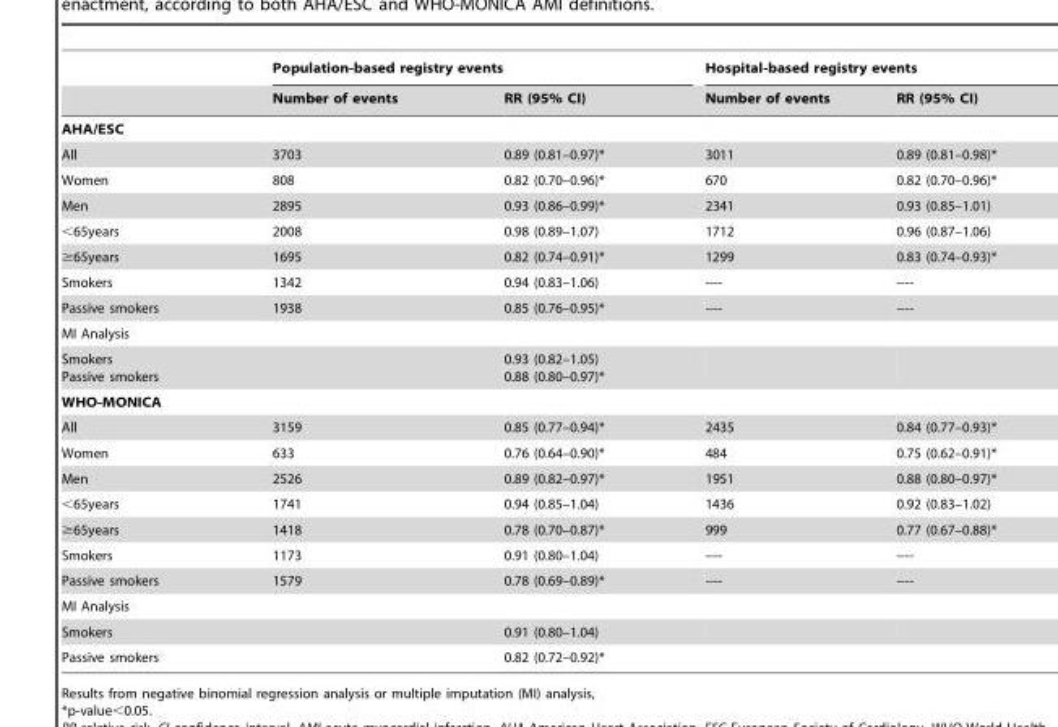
<table><thead><tr><td rowspan="2"></td><td colspan="2">Population-based registry events</td><td colspan="2">Hospital-based registry events</td></tr><tr><td>Number of events</td><td>RR (95% CI)</td><td>Number of events</td><td>RR (95% CI)</td></tr></thead><tbody><tr><td colspan="5">AHA/ESC</td></tr><tr><td>All</td><td>3703</td><td>0.89 (0.81–0.97)*</td><td>3011</td><td>0.89 (0.81–0.98)*</td></tr><tr><td>Women</td><td>808</td><td>0.82 (0.70–0.96)*</td><td>670</td><td>0.82 (0.70–0.96)*</td></tr><tr><td>Men</td><td>2895</td><td>0.93 (0.86–0.99)*</td><td>2341</td><td>0.93 (0.85–1.01)</td></tr><tr><td>&lt;65years</td><td>2008</td><td>0.98 (0.89–1.07)</td><td>1712</td><td>0.96 (0.87–1.06)</td></tr><tr><td>≥65years</td><td>1695</td><td>0.82 (0.74–0.91)*</td><td>1299</td><td>0.83 (0.74–0.93)*</td></tr><tr><td>Smokers</td><td>1342</td><td>0.94 (0.83–1.06)</td><td>----</td><td>----</td></tr><tr><td>Passive smokers</td><td>1938</td><td>0.85 (0.76–0.95)*</td><td>----</td><td>----</td></tr><tr><td colspan="5">MI Analysis</td></tr><tr><td>Smokers Passive smokers</td><td></td><td>0.93 (0.82–1.05) 0.88 (0.80–0.97)*</td><td></td><td></td></tr><tr><td colspan="5">WHO-MONICA</td></tr><tr><td>All</td><td>3159</td><td>0.85 (0.77–0.94)*</td><td>2435</td><td>0.84 (0.77–0.93)*</td></tr><tr><td>Women</td><td>633</td><td>0.76 (0.64–0.90)*</td><td>484</td><td>0.75 (0.62–0.91)*</td></tr><tr><td>Men</td><td>2526</td><td>0.89 (0.82–0.97)*</td><td>1951</td><td>0.88 (0.80–0.97)*</td></tr><tr><td>&lt;65years</td><td>1741</td><td>0.94 (0.85–1.04)</td><td>1436</td><td>0.92 (0.83–1.02)</td></tr><tr><td>≥65years</td><td>1418</td><td>0.78 (0.70–0.87)*</td><td>999</td><td>0.77 (0.67–0.88)*</td></tr><tr><td>Smokers</td><td>1173</td><td>0.91 (0.80–1.04)</td><td>----</td><td>----</td></tr><tr><td>Passive smokers</td><td>1579</td><td>0.78 (0.69–0.89)*</td><td>----</td><td>----</td></tr><tr><td colspan="5">MI Analysis</td></tr><tr><td>Smokers</td><td></td><td>0.91 (0.80–1.04)</td><td></td><td></td></tr><tr><td>Passive smokers</td><td></td><td>0.82 (0.72–0.92)*</td><td></td><td></td></tr></tbody></table>